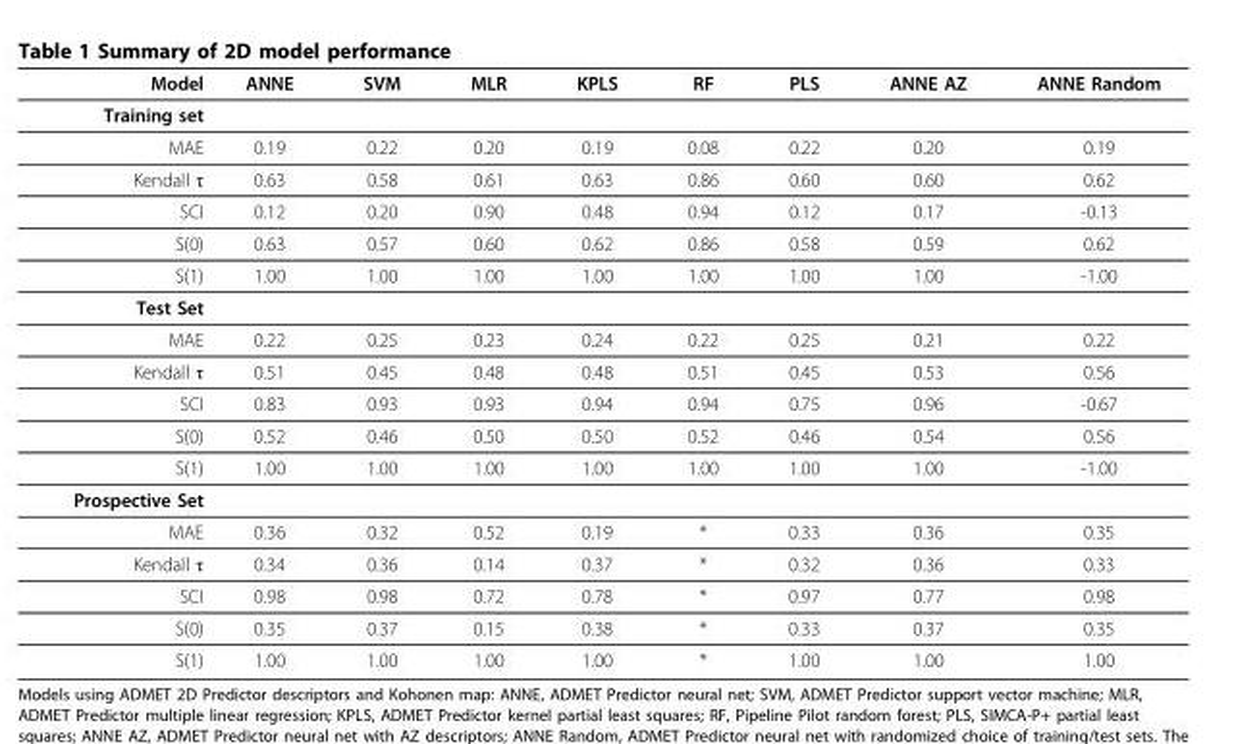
<table><thead><tr><td>Model</td><td>ANNE</td><td>SVM</td><td>MLR</td><td>KPLS</td><td>RF</td><td>PLS</td><td>ANNE AZ</td><td>ANNE Random</td></tr></thead><tbody><tr><td colspan="9">Training set</td></tr><tr><td>MAE</td><td>0.19</td><td>0.22</td><td>0.20</td><td>0.19</td><td>0.08</td><td>0.22</td><td>0.20</td><td>0.19</td></tr><tr><td>Kendall τ</td><td>0.63</td><td>0.58</td><td>0.61</td><td>0.63</td><td>0.86</td><td>0.60</td><td>0.60</td><td>0.62</td></tr><tr><td>SCI</td><td>0.12</td><td>0.20</td><td>0.90</td><td>0.48</td><td>0.94</td><td>0.12</td><td>0.17</td><td>-0.13</td></tr><tr><td>S(0)</td><td>0.63</td><td>0.57</td><td>0.60</td><td>0.62</td><td>0.86</td><td>0.58</td><td>0.59</td><td>0.62</td></tr><tr><td>S(1)</td><td>1.00</td><td>1.00</td><td>1.00</td><td>1.00</td><td>1.00</td><td>1.00</td><td>1.00</td><td>-1.00</td></tr><tr><td colspan="9">Test Set</td></tr><tr><td>MAE</td><td>0.22</td><td>0.25</td><td>0.23</td><td>0.24</td><td>0.22</td><td>0.25</td><td>0.21</td><td>0.22</td></tr><tr><td>Kendall τ</td><td>0.51</td><td>0.45</td><td>0.48</td><td>0.48</td><td>0.51</td><td>0.45</td><td>0.53</td><td>0.56</td></tr><tr><td>SCI</td><td>0.83</td><td>0.93</td><td>0.93</td><td>0.94</td><td>0.94</td><td>0.75</td><td>0.96</td><td>-0.67</td></tr><tr><td>S(0)</td><td>0.52</td><td>0.46</td><td>0.50</td><td>0.50</td><td>0.52</td><td>0.46</td><td>0.54</td><td>0.56</td></tr><tr><td>S(1)</td><td>1.00</td><td>1.00</td><td>1.00</td><td>1.00</td><td>1.00</td><td>1.00</td><td>1.00</td><td>-1.00</td></tr><tr><td colspan="9">Prospective Set</td></tr><tr><td>MAE</td><td>0.36</td><td>0.32</td><td>0.52</td><td>0.19</td><td>*</td><td>0.33</td><td>0.36</td><td>0.35</td></tr><tr><td>Kendall τ</td><td>0.34</td><td>0.36</td><td>0.14</td><td>0.37</td><td>*</td><td>0.32</td><td>0.36</td><td>0.33</td></tr><tr><td>SCI</td><td>0.98</td><td>0.98</td><td>0.72</td><td>0.78</td><td>*</td><td>0.97</td><td>0.77</td><td>0.98</td></tr><tr><td>S(0)</td><td>0.35</td><td>0.37</td><td>0.15</td><td>0.38</td><td>*</td><td>0.33</td><td>0.37</td><td>0.35</td></tr><tr><td>S(1)</td><td>1.00</td><td>1.00</td><td>1.00</td><td>1.00</td><td>*</td><td>1.00</td><td>1.00</td><td>1.00</td></tr></tbody></table>